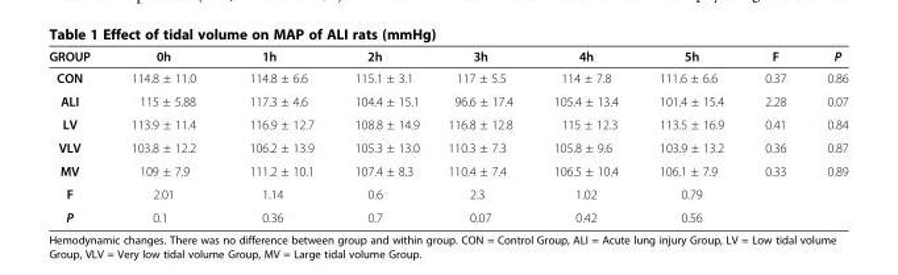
<table><thead><tr><td>GROUP</td><td>0h</td><td>1h</td><td>2h</td><td>3h</td><td>4h</td><td>5h</td><td>F</td><td>P</td></tr></thead><tbody><tr><td>CON</td><td>114.8 ± 11.0</td><td>114.8 ± 6.6</td><td>115.1 ± 3.1</td><td>117 ± 5.5</td><td>114 ± 7.8</td><td>111.6 ± 6.6</td><td>0.37</td><td>0.86</td></tr><tr><td>ALI</td><td>115 ± 5.88</td><td>117.3 ± 4.6</td><td>104.4 ± 15.1</td><td>96.6 ± 17.4</td><td>105.4 ± 13.4</td><td>101.4 ± 15.4</td><td>2.28</td><td>0.07</td></tr><tr><td>LV</td><td>113.9 ± 11.4</td><td>116.9 ± 12.7</td><td>108.8 ± 14.9</td><td>116.8 ± 12.8</td><td>115 ± 12.3</td><td>113.5 ± 16.9</td><td>0.41</td><td>0.84</td></tr><tr><td>VLV</td><td>103.8 ± 12.2</td><td>106.2 ± 13.9</td><td>105.3 ± 13.0</td><td>110.3 ± 7.3</td><td>105.8 ± 9.6</td><td>103.9 ± 13.2</td><td>0.36</td><td>0.87</td></tr><tr><td>MV</td><td>109 ± 7.9</td><td>111.2 ± 10.1</td><td>107.4 ± 8.3</td><td>110.4 ± 7.4</td><td>106.5 ± 10.4</td><td>106.1 ± 7.9</td><td>0.33</td><td>0.89</td></tr><tr><td>F</td><td>2.01</td><td>1.14</td><td>0.6</td><td>2.3</td><td>1.02</td><td>0.79</td><td rowspan="2"></td><td rowspan="2"></td></tr><tr><td>P</td><td>0.1</td><td>0.36</td><td>0.7</td><td>0.07</td><td>0.42</td><td>0.56</td></tr></tbody></table>